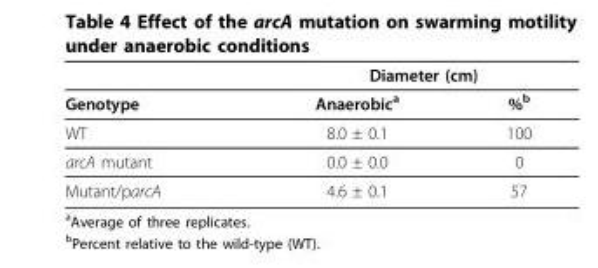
<table><thead><tr><td rowspan="2">Genotype</td><td colspan="2">Diameter (cm)</td></tr><tr><td>Anaerobic<sup>a</sup></td><td>%<sup>b</sup></td></tr></thead><tbody><tr><td>WT</td><td>8.0 ± 0.1</td><td>100</td></tr><tr><td>arcA mutant</td><td>0.0 ± 0.0</td><td>0</td></tr><tr><td>Mutant/parcA</td><td>4.6 ± 0.1</td><td>57</td></tr></tbody></table>